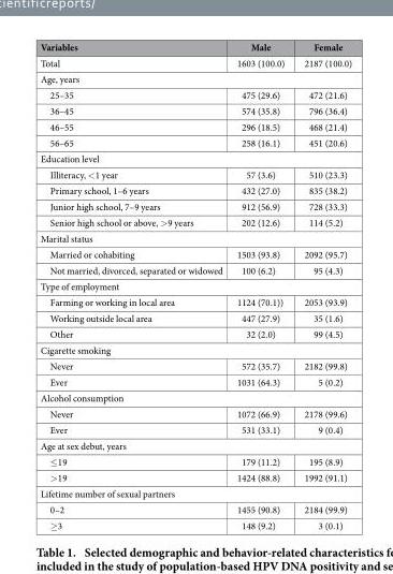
<table><thead><tr><td>Variables</td><td>Male</td><td>Female</td></tr></thead><tbody><tr><td>Total</td><td>1603 (100.0)</td><td>2187 (100.0)</td></tr><tr><td colspan="3">Age, years</td></tr><tr><td>25–35</td><td>475 (29.6)</td><td>472 (21.6)</td></tr><tr><td>36–45</td><td>574 (35.8)</td><td>796 (36.4)</td></tr><tr><td>46–55</td><td>296 (18.5)</td><td>468 (21.4)</td></tr><tr><td>56–65</td><td>258 (16.1)</td><td>451 (20.6)</td></tr><tr><td colspan="3">Education level</td></tr><tr><td>Illiteracy, &lt;1 year</td><td>57 (3.6)</td><td>510 (23.3)</td></tr><tr><td>Primary school, 1–6 years</td><td>432 (27.0)</td><td>835 (38.2)</td></tr><tr><td>Junior high school, 7–9 years</td><td>912 (56.9)</td><td>728 (33.3)</td></tr><tr><td>Senior high school or above, &gt; 9 years</td><td>202 (12.6)</td><td>114 (5.2)</td></tr><tr><td colspan="3">Marital status</td></tr><tr><td>Married or cohabiting</td><td>1503 (93.8)</td><td>2092 (95.7)</td></tr><tr><td>Not married, divorced, separated or widowed</td><td>100 (6.2)</td><td>95 (4.3)</td></tr><tr><td colspan="3">Type of employment</td></tr><tr><td>Farming or working in local area</td><td>1124 (70.1))</td><td>2053 (93.9)</td></tr><tr><td>Working outside local area</td><td>447 (27.9)</td><td>35 (1.6)</td></tr><tr><td>Other</td><td>32 (2.0)</td><td>99 (4.5)</td></tr><tr><td colspan="3">Cigarette smoking</td></tr><tr><td>Never</td><td>572 (35.7)</td><td>2182 (99.8)</td></tr><tr><td>Ever</td><td>1031 (64.3)</td><td>5 (0.2)</td></tr><tr><td colspan="3">Alcohol consumption</td></tr><tr><td>Never</td><td>1072 (66.9)</td><td>2178 (99.6)</td></tr><tr><td>Ever</td><td>531 (33.1)</td><td>9 (0.4)</td></tr><tr><td colspan="3">Age at sex debut, years</td></tr><tr><td>≤19</td><td>179 (11.2)</td><td>195 (8.9)</td></tr><tr><td>&gt;19</td><td>1424 (88.8)</td><td>1992 (91.1)</td></tr><tr><td colspan="3">Lifetime number of sexual partners</td></tr><tr><td>0–2</td><td>1455 (90.8)</td><td>2184 (99.9)</td></tr><tr><td>≥3</td><td>148 (9.2)</td><td>3 (0.1)</td></tr></tbody></table>